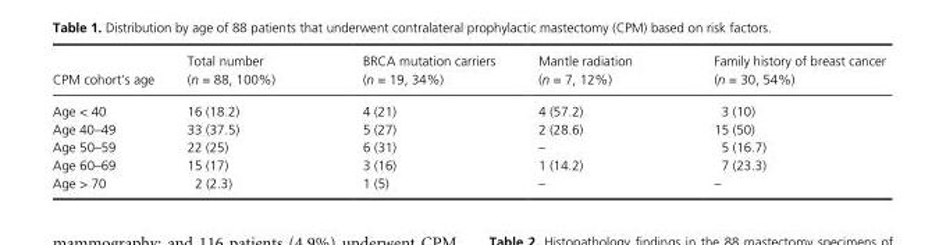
<table><thead><tr><td>CPM cohort’s age</td><td>Total number (n = 88, 100%)</td><td>BRCA mutation carriers (n = 19, 34%)</td><td>Mantle radiation (n = 7, 12%)</td><td>Family history of breast cancer (n = 30, 54%)</td></tr></thead><tbody><tr><td>Age &lt; 40</td><td>16 (18.2)</td><td>4 (21)</td><td>4 (57.2)</td><td>3 (10)</td></tr><tr><td>Age 40–49</td><td>33 (37.5)</td><td>5 (27)</td><td>2 (28.6)</td><td>15 (50)</td></tr><tr><td>Age 50–59</td><td>22 (25)</td><td>6 (31)</td><td>–</td><td>5 (16.7)</td></tr><tr><td>Age 60–69</td><td>15 (17)</td><td>3 (16)</td><td>1 (14.2)</td><td>7 (23.3)</td></tr><tr><td>Age &gt; 70</td><td>2 (2.3)</td><td>1 (5)</td><td>–</td><td>–</td></tr></tbody></table>